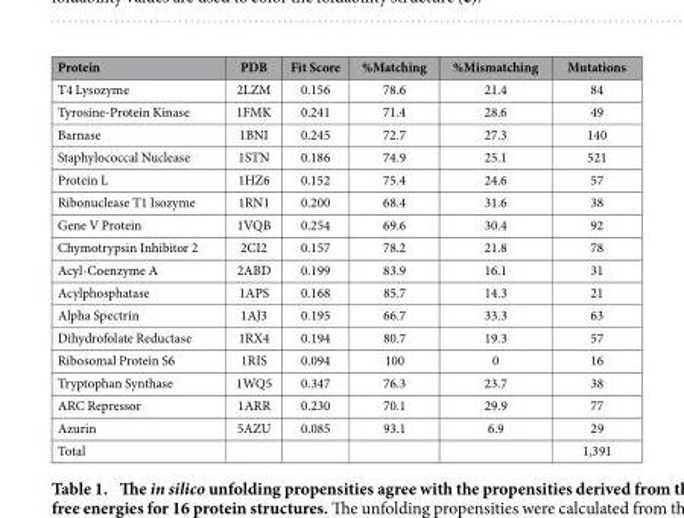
<table><thead><tr><td>Protein</td><td>PDB</td><td>Fit Score</td><td>%Matching</td><td>%Mismatching</td><td>Mutations</td></tr></thead><tbody><tr><td>T4 Lysozyme</td><td>2LZM</td><td>0.156</td><td>78.6</td><td>21.4</td><td>84</td></tr><tr><td>Tyrosine-Protein Kinase</td><td>1FMK</td><td>0.241</td><td>71.4</td><td>28.6</td><td>49</td></tr><tr><td>Barnase</td><td>1BNI</td><td>0.245</td><td>72.7</td><td>27.3</td><td>140</td></tr><tr><td>Staphylococcal Nuclease</td><td>1STN</td><td>0.186</td><td>74.9</td><td>25.1</td><td>521</td></tr><tr><td>Protein L</td><td>1HZ6</td><td>0.152</td><td>75.4</td><td>24.6</td><td>57</td></tr><tr><td>Ribonuclease T1 Isozyme</td><td>1RN1</td><td>0.200</td><td>68.4</td><td>31.6</td><td>38</td></tr><tr><td>Gene V Protein</td><td>1VQB</td><td>0.254</td><td>69.6</td><td>30.4</td><td>92</td></tr><tr><td>Chymotrypsin Inhibitor 2</td><td>2CI2</td><td>0.157</td><td>78.2</td><td>21.8</td><td>78</td></tr><tr><td>Acyl-Coenzyme A</td><td>2ABD</td><td>0.199</td><td>83.9</td><td>16.1</td><td>31</td></tr><tr><td>Acylphosphatase</td><td>1APS</td><td>0.168</td><td>85.7</td><td>14.3</td><td>21</td></tr><tr><td>Alpha Spectrin</td><td>1AJ3</td><td>0.195</td><td>66.7</td><td>33.3</td><td>63</td></tr><tr><td>Dihydrofolate Reductase</td><td>1RX4</td><td>0.194</td><td>80.7</td><td>19.3</td><td>57</td></tr><tr><td>Ribosomal Protein S6</td><td>1RIS</td><td>0.094</td><td>100</td><td>0</td><td>16</td></tr><tr><td>Tryptophan Synthase</td><td>1WQ5</td><td>0.347</td><td>76.3</td><td>23.7</td><td>38</td></tr><tr><td>ARC Repressor</td><td>1ARR</td><td>0.230</td><td>70.1</td><td>29.9</td><td>77</td></tr><tr><td>Azurin</td><td>5AZU</td><td>0.085</td><td>93.1</td><td>6.9</td><td>29</td></tr><tr><td>Total</td><td></td><td></td><td></td><td></td><td>1,391</td></tr></tbody></table>